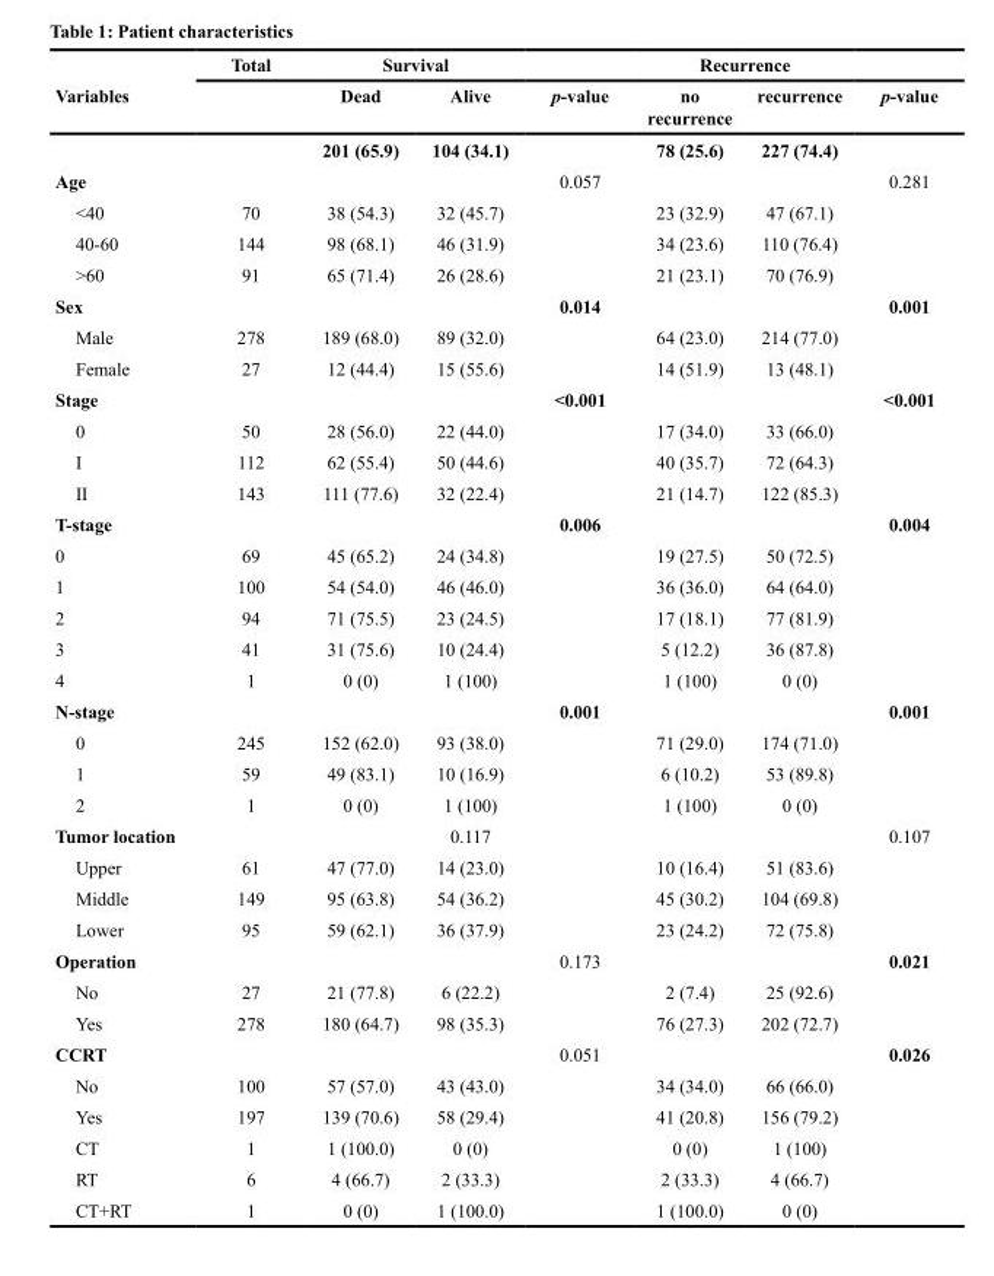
<table><thead><tr><td rowspan="2">Variables</td><td rowspan="2">Total</td><td colspan="2">Survival</td><td colspan="4">Recurrence</td></tr><tr><td>Dead</td><td>Alive</td><td>p-value</td><td>no recurrence</td><td>recurrence</td><td>p-value</td></tr></thead><tbody><tr><td></td><td></td><td>201 (65.9)</td><td>104 (34.1)</td><td></td><td>78 (25.6)</td><td>227 (74.4)</td><td></td></tr><tr><td>Age</td><td></td><td></td><td></td><td>0.057</td><td></td><td></td><td>0.281</td></tr><tr><td>&lt;40</td><td>70</td><td>38 (54.3)</td><td>32 (45.7)</td><td></td><td>23 (32.9)</td><td>47 (67.1)</td><td></td></tr><tr><td>40-60</td><td>144</td><td>98 (68.1)</td><td>46 (31.9)</td><td></td><td>34 (23.6)</td><td>110 (76.4)</td><td></td></tr><tr><td>&gt;60</td><td>91</td><td>65 (71.4)</td><td>26 (28.6)</td><td></td><td>21 (23.1)</td><td>70 (76.9)</td><td></td></tr><tr><td>Sex</td><td></td><td></td><td></td><td>0.014</td><td></td><td></td><td>0.001</td></tr><tr><td>Male</td><td>278</td><td>189 (68.0)</td><td>89 (32.0)</td><td></td><td>64 (23.0)</td><td>214 (77.0)</td><td></td></tr><tr><td>Female</td><td>27</td><td>12 (44.4)</td><td>15 (55.6)</td><td></td><td>14 (51.9)</td><td>13 (48.1)</td><td></td></tr><tr><td>Stage</td><td></td><td></td><td></td><td>&lt;0.001</td><td></td><td></td><td>&lt;0.001</td></tr><tr><td>0</td><td>50</td><td>28 (56.0)</td><td>22 (44.0)</td><td></td><td>17 (34.0)</td><td>33 (66.0)</td><td></td></tr><tr><td>I</td><td>112</td><td>62 (55.4)</td><td>50 (44.6)</td><td></td><td>40 (35.7)</td><td>72 (64.3)</td><td></td></tr><tr><td>II</td><td>143</td><td>111 (77.6)</td><td>32 (22.4)</td><td></td><td>21 (14.7)</td><td>122 (85.3)</td><td></td></tr><tr><td>T-stage</td><td></td><td></td><td></td><td>0.006</td><td></td><td></td><td>0.004</td></tr><tr><td>0</td><td>69</td><td>45 (65.2)</td><td>24 (34.8)</td><td></td><td>19 (27.5)</td><td>50 (72.5)</td><td></td></tr><tr><td>1</td><td>100</td><td>54 (54.0)</td><td>46 (46.0)</td><td></td><td>36 (36.0)</td><td>64 (64.0)</td><td></td></tr><tr><td>2</td><td>94</td><td>71 (75.5)</td><td>23 (24.5)</td><td></td><td>17 (18.1)</td><td>77 (81.9)</td><td></td></tr><tr><td>3</td><td>41</td><td>31 (75.6)</td><td>10 (24.4)</td><td></td><td>5 (12.2)</td><td>36 (87.8)</td><td></td></tr><tr><td>4</td><td>1</td><td>0 (0)</td><td>1 (100)</td><td></td><td>1 (100)</td><td>0 (0)</td><td></td></tr><tr><td>N-stage</td><td></td><td></td><td></td><td>0.001</td><td></td><td></td><td>0.001</td></tr><tr><td>0</td><td>245</td><td>152 (62.0)</td><td>93 (38.0)</td><td></td><td>71 (29.0)</td><td>174 (71.0)</td><td></td></tr><tr><td>1</td><td>59</td><td>49 (83.1)</td><td>10 (16.9)</td><td></td><td>6 (10.2)</td><td>53 (89.8)</td><td></td></tr><tr><td>2</td><td>1</td><td>0 (0)</td><td>1 (100)</td><td></td><td>1 (100)</td><td>0 (0)</td><td></td></tr><tr><td>Tumor location</td><td></td><td></td><td>0.117</td><td></td><td></td><td></td><td>0.107</td></tr><tr><td>Upper</td><td>61</td><td>47 (77.0)</td><td>14 (23.0)</td><td></td><td>10 (16.4)</td><td>51 (83.6)</td><td></td></tr><tr><td>Middle</td><td>149</td><td>95 (63.8)</td><td>54 (36.2)</td><td></td><td>45 (30.2)</td><td>104 (69.8)</td><td></td></tr><tr><td>Lower</td><td>95</td><td>59 (62.1)</td><td>36 (37.9)</td><td></td><td>23 (24.2)</td><td>72 (75.8)</td><td></td></tr><tr><td>Operation</td><td></td><td></td><td></td><td>0.173</td><td></td><td></td><td>0.021</td></tr><tr><td>No</td><td>27</td><td>21 (77.8)</td><td>6 (22.2)</td><td></td><td>2 (7.4)</td><td>25 (92.6)</td><td></td></tr><tr><td>Yes</td><td>278</td><td>180 (64.7)</td><td>98 (35.3)</td><td></td><td>76 (27.3)</td><td>202 (72.7)</td><td></td></tr><tr><td>CCRT</td><td></td><td></td><td></td><td>0.051</td><td></td><td></td><td>0.026</td></tr><tr><td>No</td><td>100</td><td>57 (57.0)</td><td>43 (43.0)</td><td></td><td>34 (34.0)</td><td>66 (66.0)</td><td></td></tr><tr><td>Yes</td><td>197</td><td>139 (70.6)</td><td>58 (29.4)</td><td></td><td>41 (20.8)</td><td>156 (79.2)</td><td></td></tr><tr><td>CT</td><td>1</td><td>1 (100.0)</td><td>0 (0)</td><td></td><td>0 (0)</td><td>1 (100)</td><td></td></tr><tr><td>RT</td><td>6</td><td>4 (66.7)</td><td>2 (33.3)</td><td></td><td>2 (33.3)</td><td>4 (66.7)</td><td></td></tr><tr><td>CT+RT</td><td>1</td><td>0 (0)</td><td>1 (100.0)</td><td></td><td>1 (100.0)</td><td>0 (0)</td><td></td></tr></tbody></table>